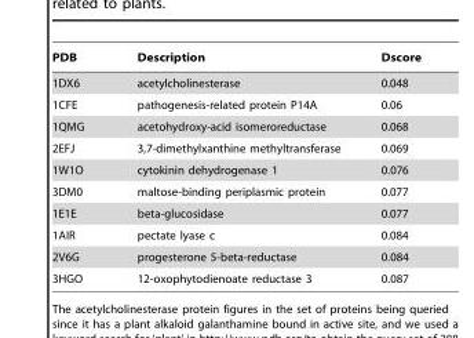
<table><thead><tr><td>PDB</td><td>Description</td><td>Dscore</td></tr></thead><tbody><tr><td>1DX6</td><td>acetylcholinesterase</td><td>0.048</td></tr><tr><td>1CFE</td><td>pathogenesis-related protein P14A</td><td>0.06</td></tr><tr><td>1QMG</td><td>acetohydroxy-acid isomeroreductase</td><td>0.068</td></tr><tr><td>2EFJ</td><td>3,7-dimethylxanthine methyltransferase</td><td>0.069</td></tr><tr><td>1W1O</td><td>cytokinin dehydrogenase 1</td><td>0.076</td></tr><tr><td>3DM0</td><td>maltose-binding periplasmic protein</td><td>0.077</td></tr><tr><td>1E1E</td><td>beta-glucosidase</td><td>0.077</td></tr><tr><td>1AIR</td><td>pectate lyase c</td><td>0.084</td></tr><tr><td>2V6G</td><td>progesterone 5-beta-reductase</td><td>0.084</td></tr><tr><td>3HGO</td><td>12-oxophytodienoate reductase 3</td><td>0.087</td></tr></tbody></table>